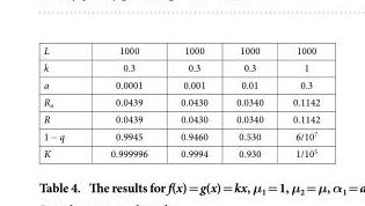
<table><tbody><tr><td>L</td><td>1000</td><td>1000</td><td>1000</td><td>1000</td></tr><tr><td>k</td><td>0.3</td><td>0.3</td><td>0.3</td><td>1</td></tr><tr><td>a</td><td>0.0001</td><td>0.001</td><td>0.01</td><td>0.3</td></tr><tr><td>R<sub>n</sub></td><td>0.0439</td><td>0.0430</td><td>0.0340</td><td>0.1142</td></tr><tr><td>R</td><td>0.0439</td><td>0.0430</td><td>0.0340</td><td>0.1142</td></tr><tr><td>1 − q</td><td>0.9945</td><td>0.9460</td><td>0.530</td><td>6/10<sup>7</sup></td></tr><tr><td>K</td><td>0.999996</td><td>0.9994</td><td>0.930</td><td>1/10<sup>5</sup></td></tr></tbody></table>